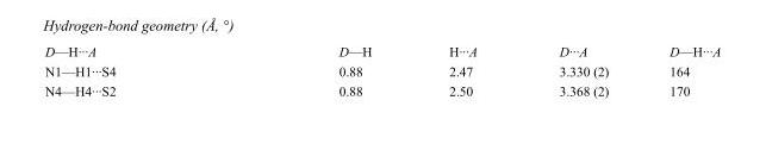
<table><tbody><tr><td>D—H···A</td><td>D—H</td><td>H···A</td><td>D···A</td><td>D—H···A</td></tr><tr><td>N1—H1···S4</td><td>0.88</td><td>2.47</td><td>3.330 (2)</td><td>164</td></tr><tr><td>N4—H4···S2</td><td>0.88</td><td>2.50</td><td>3.368 (2)</td><td>170</td></tr></tbody></table>